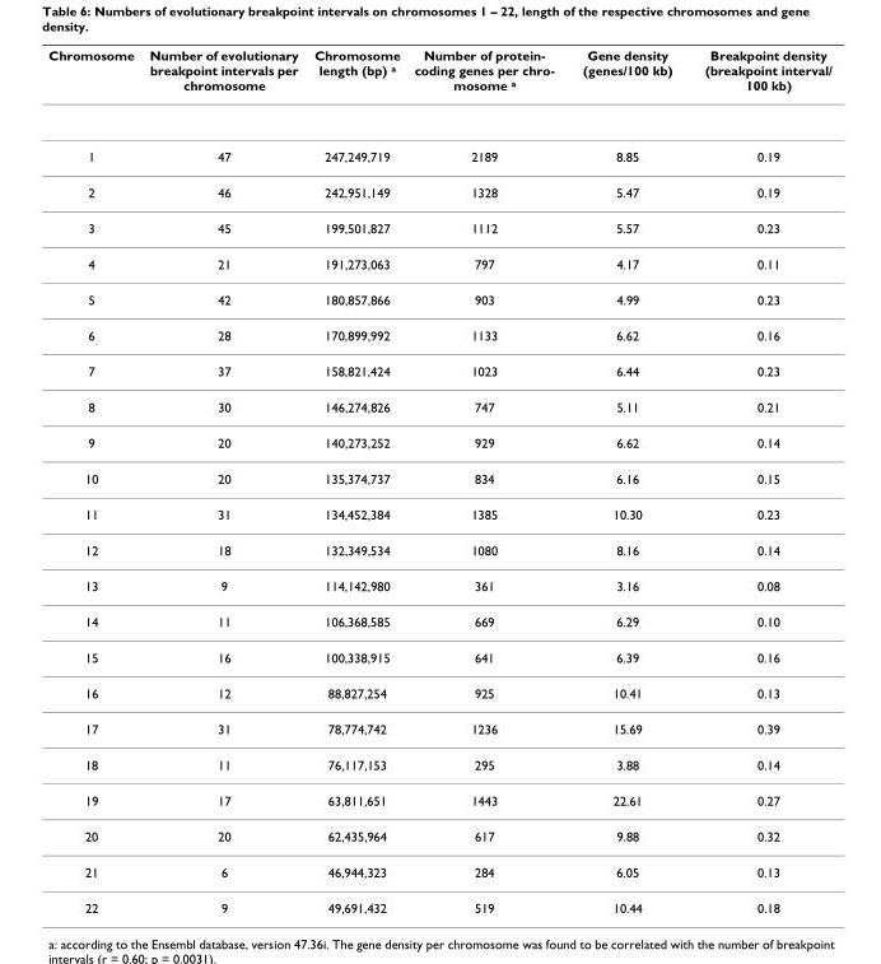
<table><thead><tr><td>Chromosome</td><td>Number of evolutionary breakpoint intervals per chromosome</td><td>Chromosome length (bp) <sup>a</sup></td><td>Number of protein- coding genes per chro- mosome a</td><td>Gene density (genes/100 kb)</td><td>Breakpoint density (breakpoint interval/ 100 kb)</td></tr></thead><tbody><tr><td>1</td><td>47</td><td>247,249,719</td><td>2189</td><td>8.85</td><td>0.19</td></tr><tr><td>2</td><td>46</td><td>242,951,149</td><td>1328</td><td>5.47</td><td>0.19</td></tr><tr><td>3</td><td>45</td><td>199,501,827</td><td>1112</td><td>5.57</td><td>0.23</td></tr><tr><td>4</td><td>21</td><td>191,273,063</td><td>797</td><td>4.17</td><td>0.11</td></tr><tr><td>5</td><td>42</td><td>180,857,866</td><td>903</td><td>4.99</td><td>0.23</td></tr><tr><td>6</td><td>28</td><td>170,899,992</td><td>1133</td><td>6.62</td><td>0.16</td></tr><tr><td>7</td><td>37</td><td>158,821,424</td><td>1023</td><td>6.44</td><td>0.23</td></tr><tr><td>8</td><td>30</td><td>146,274,826</td><td>747</td><td>5.11</td><td>0.21</td></tr><tr><td>9</td><td>20</td><td>140,273,252</td><td>929</td><td>6.62</td><td>0.14</td></tr><tr><td>10</td><td>20</td><td>135,374,737</td><td>834</td><td>6.16</td><td>0.15</td></tr><tr><td>11</td><td>31</td><td>134,452,384</td><td>1385</td><td>10.30</td><td>0.23</td></tr><tr><td>12</td><td>18</td><td>132,349,534</td><td>1080</td><td>8.16</td><td>0.14</td></tr><tr><td>13</td><td>9</td><td>114,142,980</td><td>361</td><td>3.16</td><td>0.08</td></tr><tr><td>14</td><td>11</td><td>106,368,585</td><td>669</td><td>6.29</td><td>0.10</td></tr><tr><td>15</td><td>16</td><td>100,338,915</td><td>641</td><td>6.39</td><td>0.16</td></tr><tr><td>16</td><td>12</td><td>88,827,254</td><td>925</td><td>10.41</td><td>0.13</td></tr><tr><td>17</td><td>31</td><td>78,774,742</td><td>1236</td><td>15.69</td><td>0.39</td></tr><tr><td>18</td><td>11</td><td>76,117,153</td><td>295</td><td>3.88</td><td>0.14</td></tr><tr><td>19</td><td>17</td><td>63,811,651</td><td>1443</td><td>22.61</td><td>0.27</td></tr><tr><td>20</td><td>20</td><td>62,435,964</td><td>617</td><td>9.88</td><td>0.32</td></tr><tr><td>21</td><td>6</td><td>46,944,323</td><td>284</td><td>6.05</td><td>0.13</td></tr><tr><td>22</td><td>9</td><td>49,691,432</td><td>519</td><td>10.44</td><td>0.18</td></tr></tbody></table>